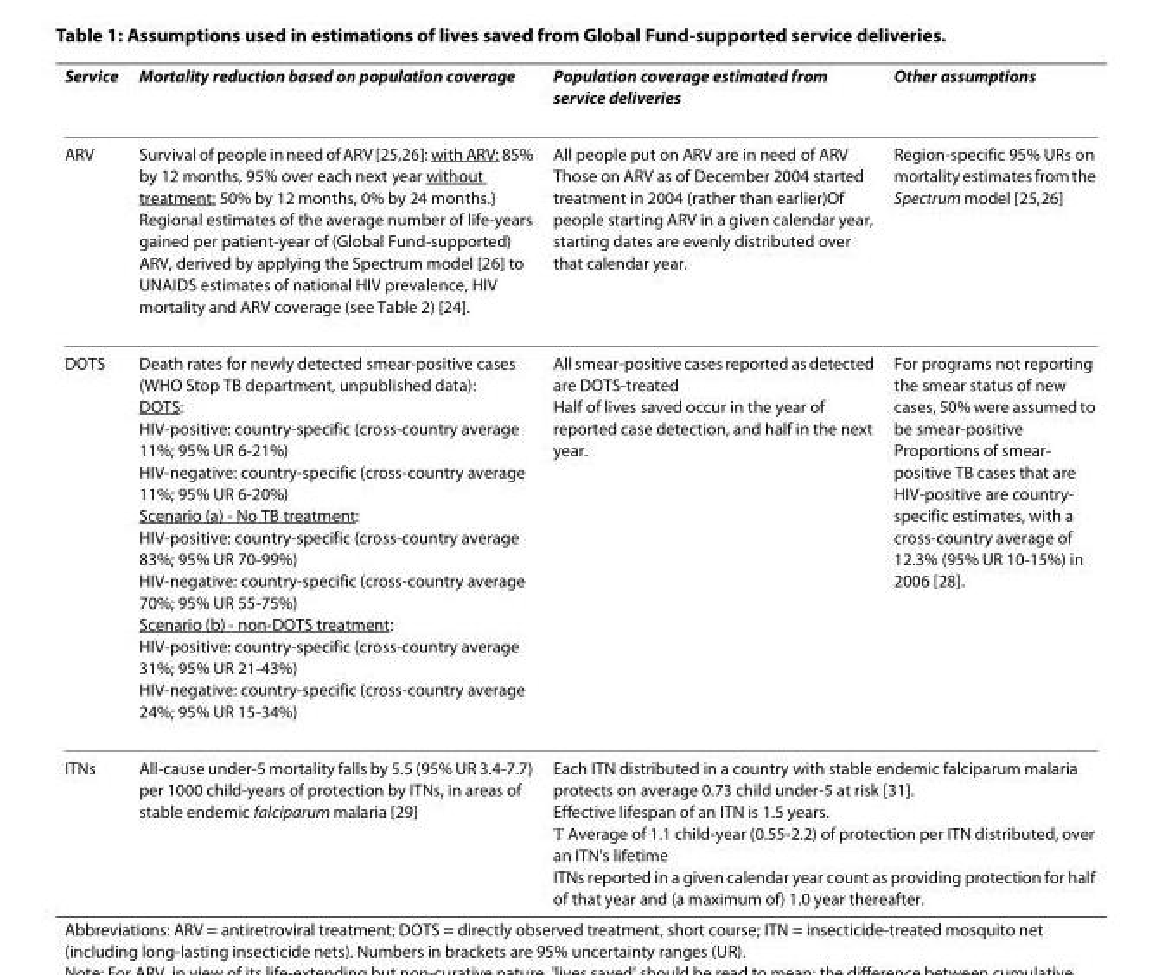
<table><thead><tr><td>Service</td><td>Mortality reduction based on population coverage</td><td>Population coverage estimated from service deliveries</td><td>Other assumptions</td></tr></thead><tbody><tr><td>ARV</td><td>Survival of people in need of ARV [25,26]: with ARV: 85% by 12 months, 95% over each next year without treatment: 50% by 12 months, 0% by 24 months.} Regional estimates of the average number of life-years gained per patient-year of (Global Fund-supported) ARV, derived by applying the Spectrum model [26] to UNAIDS estimates of national HIV prevalence, HIV mortality and ARV coverage (see Table 2) [24].</td><td>All people put on ARV are in need of ARV Those on ARV as of December 2004 started treatment in 2004 (rather than earlier)Of people starting ARV in a given calendar year, starting dates are evenly distributed over that calendar year.</td><td>Region-specific 95% URs on mortality estimates from the Spectrum model [25,26]</td></tr><tr><td>DOTS</td><td>Death rates for newly detected smear-positive cases (WHO Stop TB department, unpublished data): DOTS: HIV-positive: country-specific (cross-country average 11%; 95% UR 6-21%) HIV-negative: country-specific (cross-country average 11%; 95% UR 6-20%) Scenario (a) - No TB treatment: HIV-positive: country-specific (cross-country average 83%; 95% UR 70-99%) HIV-negative: country-specific (cross-country average 70%; 95% UR 55-75%) Scenario (b) - non-DOTS treatment: HIV-positive: country-specific (cross-country average 31%; 95% UR 21-43%) HIV-negative: country-specific (cross-country average 24%; 95% UR 15-34%)</td><td>All smear-positive cases reported as detected are DOTS-treated Half of lives saved occur in the year of reported case detection, and half in the next year.</td><td>For programs not reporting the smear status of new cases, 50% were assumed to be smear-positive Proportions of smear- positive TB cases that are HIV-positive are country- specific estimates, with a cross-country average of 12.3% (95% UR 10-15%) in 2006 [28].</td></tr><tr><td>ITNs</td><td>All-cause under-5 mortality falls by 5.5 (95% UR 3.4-7.7) per 1000 child-years of protection by ITNs, in areas of stable endemic falciparum malaria [29]</td><td colspan="2">Each ITN distributed in a country with stable endemic falciparum malaria protects on average 0.73 child under-5 at risk [31]. Effective lifespan of an ITN is 1.5 years. → Average of 1.1 child-year (0.55-2.2) of protection per ITN distributed, over an ITN&#x27;s lifetime ITNs reported in a given calendar year count as providing protection for half of that year and (a maximum of) 1.0 year thereafter.</td></tr></tbody></table>